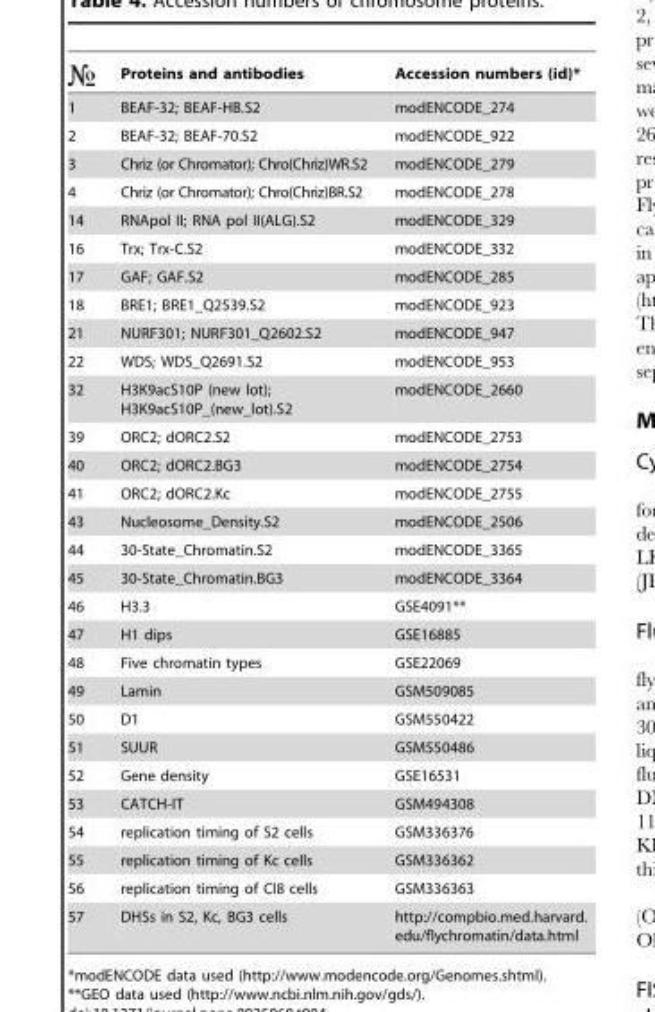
<table><thead><tr><td></td><td>Proteins and antibodies</td><td>Accession numbers (id)*</td></tr></thead><tbody><tr><td>1</td><td>BEAF-32; BEAF-HB.S2</td><td>modENCODE_274</td></tr><tr><td>2</td><td>BEAF-32; BEAF-70.S2</td><td>modENCODE_922</td></tr><tr><td>3</td><td>Chriz (or Chromator); Chro(Chriz)WR.S2</td><td>modENCODE_279</td></tr><tr><td>4</td><td>Chriz (or Chromator); Chro(Chriz)BR.S2</td><td>modENCODE_278</td></tr><tr><td>14</td><td>RNApol II; RNA pol II(ALG).S2</td><td>modENCODE_329</td></tr><tr><td>16</td><td>Trx; Trx-C.S2</td><td>modENCODE_332</td></tr><tr><td>17</td><td>GAF; GAF.S2</td><td>modENCODE_285</td></tr><tr><td>18</td><td>BRE1; BRE1_Q2539.S2</td><td>modENCODE_923</td></tr><tr><td>21</td><td>NURF301; NURF301_Q2602.S2</td><td>modENCODE_947</td></tr><tr><td>22</td><td>WDS; WDS_Q2691.S2</td><td>modENCODE_953</td></tr><tr><td>32</td><td>H3K9acS10P (new lot); H3K9acS10P_(new_lot).S2</td><td>modENCODE_2660</td></tr><tr><td>39</td><td>ORC2; dORC2.S2</td><td>modENCODE_2753</td></tr><tr><td>40</td><td>ORC2; dORC2.BG3</td><td>modENCODE_2754</td></tr><tr><td>41</td><td>ORC2; dORC2.Kc</td><td>modENCODE_2755</td></tr><tr><td>43</td><td>Nucleosome_Density.S2</td><td>modENCODE_2506</td></tr><tr><td>44</td><td>30-State_Chromatin.S2</td><td>modENCODE_3365</td></tr><tr><td>45</td><td>30-State_Chromatin.BG3</td><td>modENCODE_3364</td></tr><tr><td>46</td><td>H3.3</td><td>GSE4091**</td></tr><tr><td>47</td><td>H1 dips</td><td>GSE16885</td></tr><tr><td>48</td><td>Five chromatin types</td><td>GSE22069</td></tr><tr><td>49</td><td>Lamin</td><td>GSM509085</td></tr><tr><td>50</td><td>D1</td><td>GSM550422</td></tr><tr><td>51</td><td>SUUR</td><td>GSM550486</td></tr><tr><td>52</td><td>Gene density</td><td>GSE16531</td></tr><tr><td>53</td><td>CATCH-IT</td><td>GSM494308</td></tr><tr><td>54</td><td>replication timing of S2 cells</td><td>GSM336376</td></tr><tr><td>55</td><td>replication timing of Kc cells</td><td>GSM336362</td></tr><tr><td>56</td><td>replication timing of Cl8 cells</td><td>GSM336363</td></tr><tr><td>57</td><td>DHSs in S2, Kc, BG3 cells</td><td>http://compbio.med.harvard. edu/flychromatin/data.html</td></tr></tbody></table>